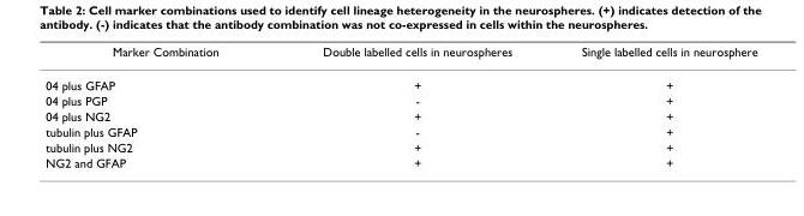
<table><thead><tr><td>Marker Combination</td><td>Double labelled cells in neurospheres</td><td>Single labelled cells in neurosphere</td></tr></thead><tbody><tr><td>04 plus GFAP</td><td>+</td><td>+</td></tr><tr><td>04 plus PGP</td><td>-</td><td>+</td></tr><tr><td>04 plus NG2</td><td>+</td><td>+</td></tr><tr><td>tubulin plus GFAP</td><td>-</td><td>+</td></tr><tr><td>tubulin plus NG2</td><td>+</td><td>+</td></tr><tr><td>NG2 and GFAP</td><td>+</td><td>+</td></tr></tbody></table>